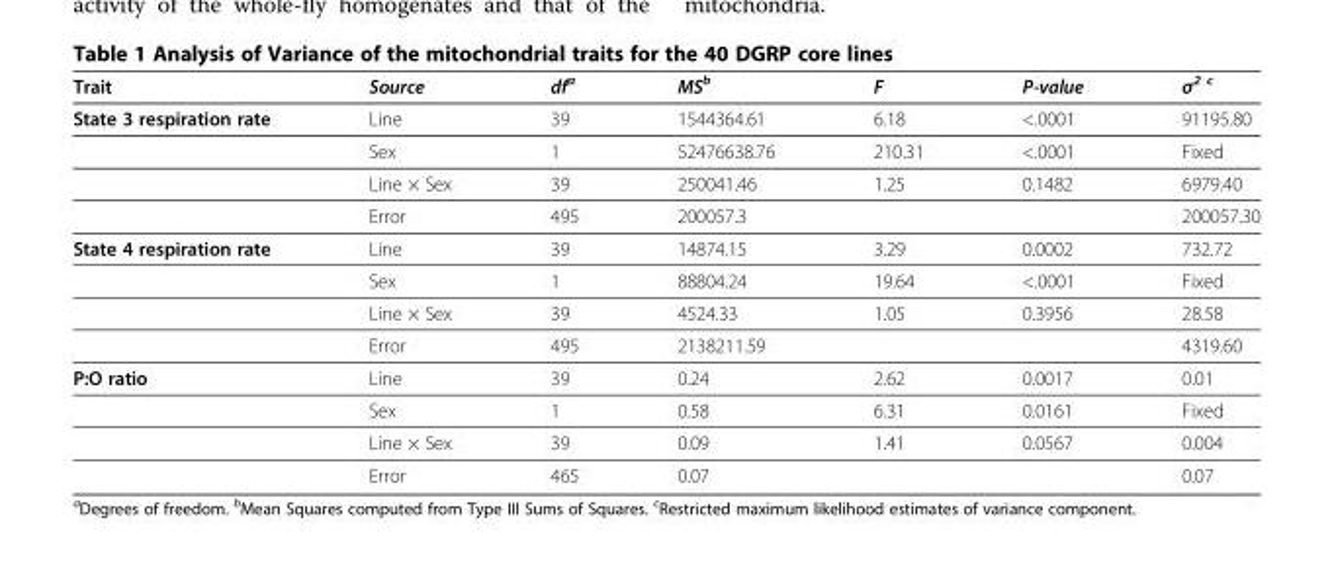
<table><thead><tr><td>Trait</td><td>Source</td><td>df<sup>a</sup></td><td>MS<sup>b</sup></td><td>F</td><td>P-value</td><td>σ<sup>2 c</sup></td></tr></thead><tbody><tr><td rowspan="4">State 3 respiration rate</td><td>Line</td><td>39</td><td>1544364.61</td><td>6.18</td><td>&lt;.0001</td><td>91195.80</td></tr><tr><td>Sex</td><td>1</td><td>52476638.76</td><td>210.31</td><td>&lt;.0001</td><td>Fixed</td></tr><tr><td>Line × Sex</td><td>39</td><td>250041.46</td><td>1.25</td><td>0.1482</td><td>6979.40</td></tr><tr><td>Error</td><td>495</td><td>200057.3</td><td></td><td></td><td>200057.30</td></tr><tr><td rowspan="4">State 4 respiration rate</td><td>Line</td><td>39</td><td>14874.15</td><td>3.29</td><td>0.0002</td><td>732.72</td></tr><tr><td>Sex</td><td>1</td><td>88804.24</td><td>19.64</td><td>&lt;.0001</td><td>Fixed</td></tr><tr><td>Line × Sex</td><td>39</td><td>4524.33</td><td>1.05</td><td>0.3956</td><td>28.58</td></tr><tr><td>Error</td><td>495</td><td>2138211.59</td><td></td><td></td><td>4319.60</td></tr><tr><td rowspan="4">P:O ratio</td><td>Line</td><td>39</td><td>0.24</td><td>2.62</td><td>0.0017</td><td>0.01</td></tr><tr><td>Sex</td><td>1</td><td>0.58</td><td>6.31</td><td>0.0161</td><td>Fixed</td></tr><tr><td>Line × Sex</td><td>39</td><td>0.09</td><td>1.41</td><td>0.0567</td><td>0.004</td></tr><tr><td>Error</td><td>465</td><td>0.07</td><td></td><td></td><td>0.07</td></tr></tbody></table>